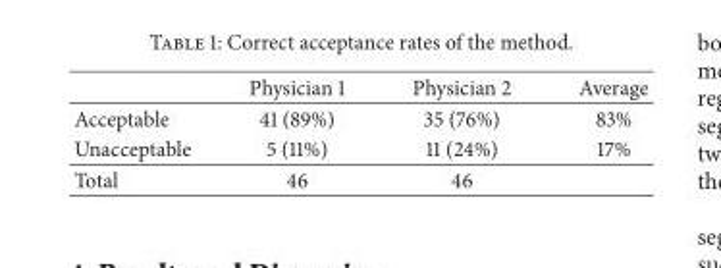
<table><thead><tr><td></td><td>Physician 1</td><td>Physician 2</td><td>Average</td></tr></thead><tbody><tr><td>Acceptable</td><td>41 (89%)</td><td>35 (76%)</td><td>83%</td></tr><tr><td>Unacceptable</td><td>5 (11%)</td><td>11 (24%)</td><td>17%</td></tr><tr><td>Total</td><td>46</td><td>46</td><td></td></tr></tbody></table>